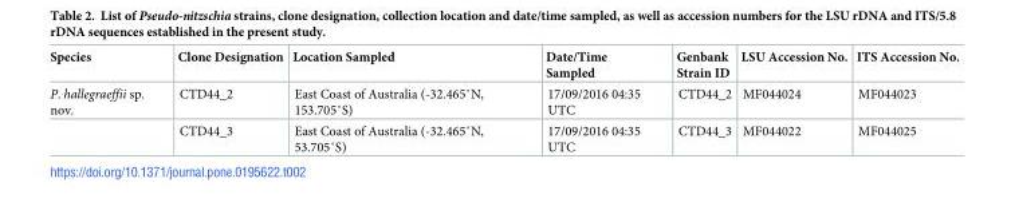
<table><thead><tr><td>Species</td><td>Clone Designation</td><td>Location Sampled</td><td>Date/Time Sampled</td><td>Genbank Strain ID</td><td>LSU Accession No.</td><td>ITS Accession No.</td></tr></thead><tbody><tr><td rowspan="2">P. hallegraeffii sp. nov.</td><td>CTD44_2</td><td>East Coast of Australia (-32.465˚N, 153.705˚S)</td><td>17/09/2016 04:35 UTC</td><td>CTD44_2</td><td>MF044024</td><td>MF044023</td></tr><tr><td>CTD44_3</td><td>East Coast of Australia (-32.465˚N, 53.705˚S)</td><td>17/09/2016 04:35 UTC</td><td>CTD44_3</td><td>MF044022</td><td>MF044025</td></tr></tbody></table>